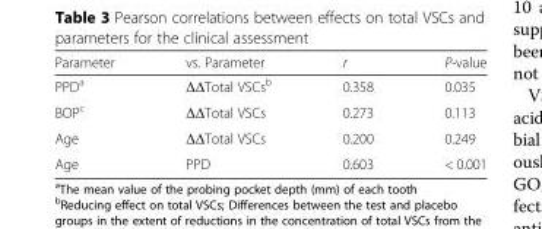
<table><thead><tr><td>Parameter</td><td>vs. Parameter</td><td>r</td><td>P-value</td></tr></thead><tbody><tr><td>PPD<sup>a</sup></td><td>ΔΔTotal VSCs<sup>b</sup></td><td>0.358</td><td>0.035</td></tr><tr><td>BOP<sup>c</sup></td><td>ΔΔTotal VSCs</td><td>0.273</td><td>0.113</td></tr><tr><td>Age</td><td>ΔΔTotal VSCs</td><td>0.200</td><td>0.249</td></tr><tr><td>Age</td><td>PPD</td><td>0.603</td><td>&lt; 0.001</td></tr></tbody></table>